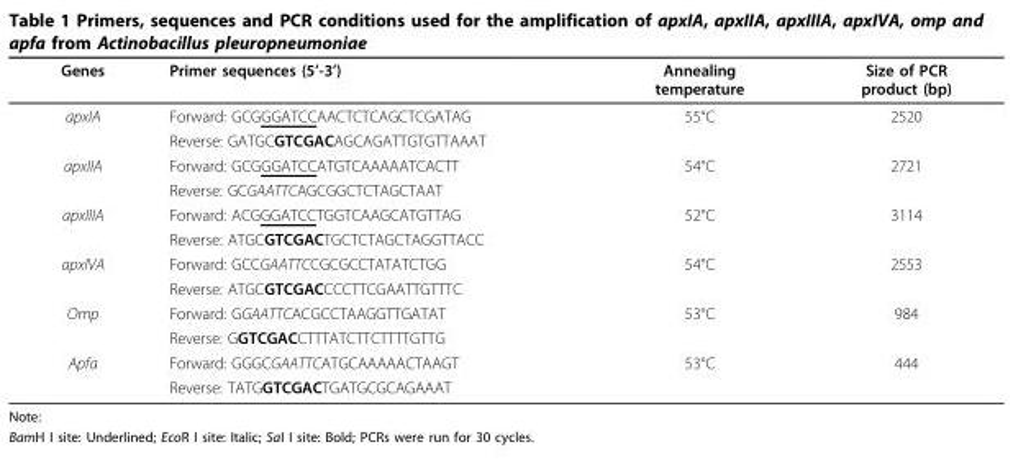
<table><thead><tr><td>Genes</td><td>Primer sequences (5’-3’)</td><td>Annealing temperature</td><td>Size of PCR product (bp)</td></tr></thead><tbody><tr><td rowspan="2">apxIA</td><td>Forward: GCGGGATCCAACTCTCAGCTCGATAG</td><td>55°C</td><td>2520</td></tr><tr><td>Reverse: GATGCGTCGACAGCAGATTGTGTTAAAT</td><td></td><td></td></tr><tr><td rowspan="2">apxIIA</td><td>Forward: GCGGGATCCATGTCAAAAATCACTT</td><td>54°C</td><td>2721</td></tr><tr><td>Reverse: GCGAATTCAGCGGCTCTAGCTAAT</td><td></td><td></td></tr><tr><td rowspan="2">apxIIIA</td><td>Forward: ACGGGATCCTGGTCAAGCATGTTAG</td><td>52°C</td><td>3114</td></tr><tr><td>Reverse: ATGCGTCGACTGCTCTAGCTAGGTTACC</td><td></td><td></td></tr><tr><td rowspan="2">apxIVA</td><td>Forward: GCCGAATTCCGCGCCTATATCTGG</td><td>54°C</td><td>2553</td></tr><tr><td>Reverse: ATGCGTCGACCCCTTCGAATTGTTTC</td><td></td><td></td></tr><tr><td rowspan="2">Omp</td><td>Forward: GGAATTCACGCCTAAGGTTGATAT</td><td>53°C</td><td>984</td></tr><tr><td>Reverse: GGTCGACCTTTATCTTCTTTTGTTG</td><td></td><td></td></tr><tr><td rowspan="2">Apfa</td><td>Forward: GGGCGAATTCATGCAAAAACTAAGT</td><td>53°C</td><td>444</td></tr><tr><td>Reverse: TATGGTCGACTGATGCGCAGAAAT</td><td></td><td></td></tr></tbody></table>